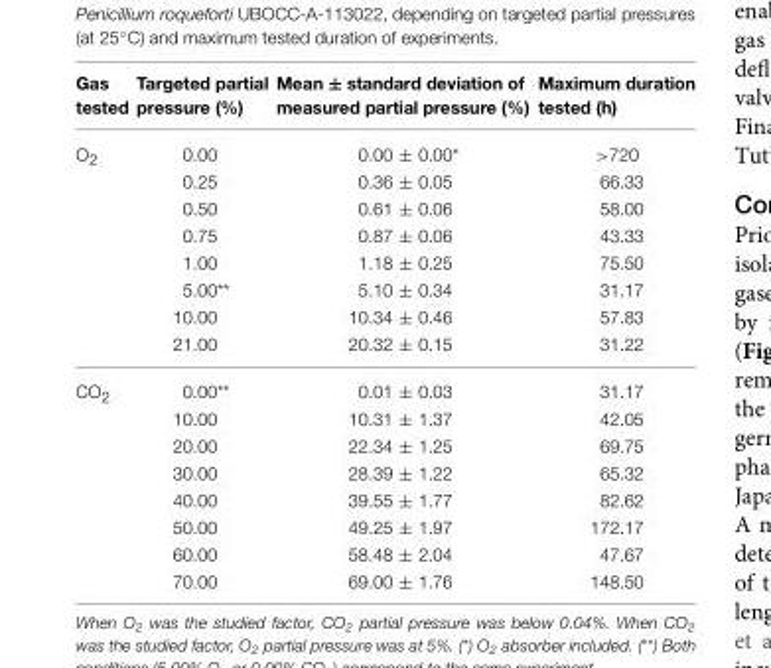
<table><thead><tr><td>Gas tested</td><td>Targeted partial pressure (%)</td><td>Mean ± standard deviation of measured partial pressure (%)</td><td>Maximum duration tested (h)</td></tr></thead><tbody><tr><td rowspan="8">O<sub>2</sub></td><td>0.00</td><td>0.00 ± 0.00*</td><td>&gt;720</td></tr><tr><td>0.25</td><td>0.36 ± 0.05</td><td>66.33</td></tr><tr><td>0.50</td><td>0.61 ± 0.06</td><td>58.00</td></tr><tr><td>0.75</td><td>0.87 ± 0.06</td><td>43.33</td></tr><tr><td>1.00</td><td>1.18 ± 0.25</td><td>75.50</td></tr><tr><td>5.00**</td><td>5.10 ± 0.34</td><td>31.17</td></tr><tr><td>10.00</td><td>10.34 ± 0.46</td><td>57.83</td></tr><tr><td>21.00</td><td>20.32 ± 0.15</td><td>31.22</td></tr><tr><td rowspan="8">CO<sub>2</sub></td><td>0.00**</td><td>0.01 ± 0.03</td><td>31.17</td></tr><tr><td>10.00</td><td>10.31 ± 1.37</td><td>42.05</td></tr><tr><td>20.00</td><td>22.34 ± 1.25</td><td>69.75</td></tr><tr><td>30.00</td><td>28.39 ± 1.22</td><td>65.32</td></tr><tr><td>40.00</td><td>39.55 ± 1.77</td><td>82.62</td></tr><tr><td>50.00</td><td>49.25 ± 1.97</td><td>172.17</td></tr><tr><td>60.00</td><td>58.48 ± 2.04</td><td>47.67</td></tr><tr><td>70.00</td><td>69.00 ± 1.76</td><td>148.50</td></tr></tbody></table>